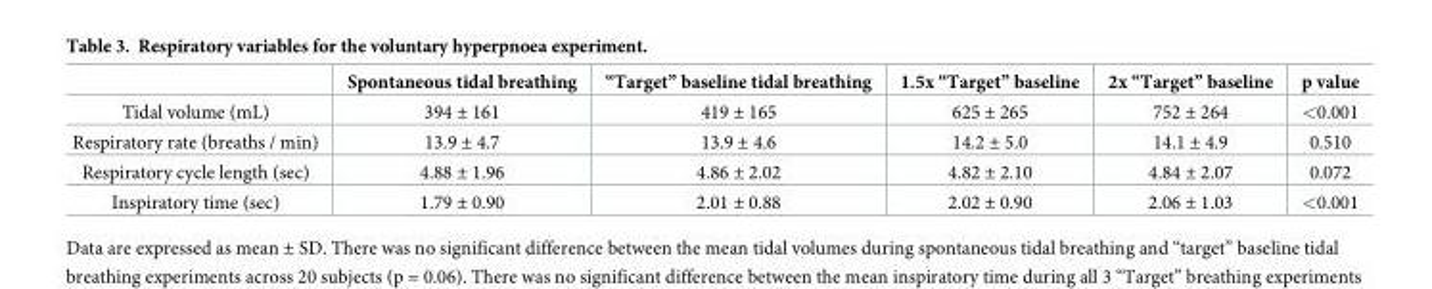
<table><thead><tr><td></td><td>Spontaneous tidal breathing</td><td>“Target” baseline tidal breathing</td><td>1.5x “Target” baseline</td><td>2x “Target” baseline</td><td>p value</td></tr></thead><tbody><tr><td>Tidal volume (mL)</td><td>394 ± 161</td><td>419 ± 165</td><td>625 ± 265</td><td>752 ± 264</td><td>&lt;0.001</td></tr><tr><td>Respiratory rate (breaths / min)</td><td>13.9 ± 4.7</td><td>13.9 ± 4.6</td><td>14.2 ± 5.0</td><td>14.1 ± 4.9</td><td>0.510</td></tr><tr><td>Respiratory cycle length (sec)</td><td>4.88 ± 1.96</td><td>4.86 ± 2.02</td><td>4.82 ± 2.10</td><td>4.84 ± 2.07</td><td>0.072</td></tr><tr><td>Inspiratory time (sec)</td><td>1.79 ± 0.90</td><td>2.01 ± 0.88</td><td>2.02 ± 0.90</td><td>2.06 ± 1.03</td><td>&lt;0.001</td></tr></tbody></table>